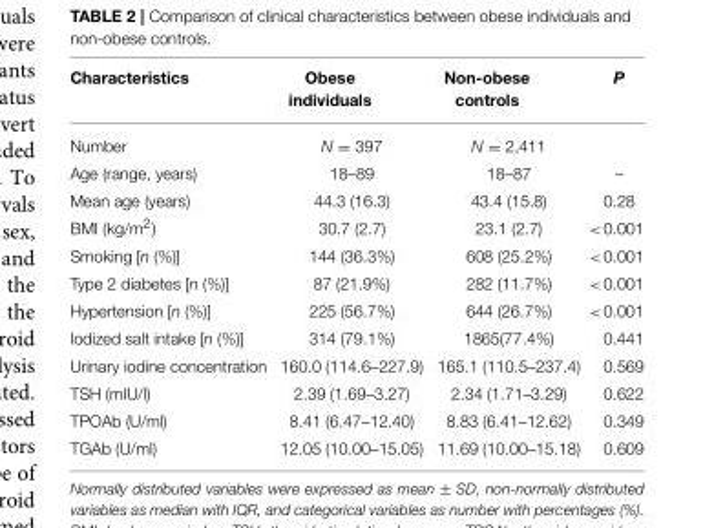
<table><thead><tr><td>Characteristics</td><td>Obese individuals</td><td>Non-obese controls</td><td>P</td></tr></thead><tbody><tr><td>Number</td><td>N = 397</td><td>N = 2,411</td><td></td></tr><tr><td>Age (range, years)</td><td>18–89</td><td>18–87</td><td>–</td></tr><tr><td>Mean age (years)</td><td>44.3 (16.3)</td><td>43.4 (15.8)</td><td>0.28</td></tr><tr><td>BMI (kg/m<sup>2</sup>)</td><td>30.7 (2.7)</td><td>23.1 (2.7)</td><td>&lt;0.001</td></tr><tr><td>Smoking [n (%)]</td><td>144 (36.3%)</td><td>608 (25.2%)</td><td>&lt;0.001</td></tr><tr><td>Type 2 diabetes [n (%)]</td><td>87 (21.9%)</td><td>282 (11.7%)</td><td>&lt;0.001</td></tr><tr><td>Hypertension [n (%)]</td><td>225 (56.7%)</td><td>644 (26.7%)</td><td>&lt;0.001</td></tr><tr><td>Iodized salt intake [n (%)]</td><td>314 (79.1%)</td><td>1865(77.4%)</td><td>0.441</td></tr><tr><td>Urinary iodine concentration</td><td>160.0 (114.6–227.9)</td><td>165.1 (110.5–237.4)</td><td>0.569</td></tr><tr><td>TSH (mIU/l)</td><td>2.39 (1.69–3.27)</td><td>2.34 (1.71–3.29)</td><td>0.622</td></tr><tr><td>TPOAb (U/ml)</td><td>8.41 (6.47–12.40)</td><td>8.83 (6.41–12.62)</td><td>0.349</td></tr><tr><td>TGAb (U/ml)</td><td>12.05 (10.00–15.05)</td><td>11.69 (10.00–15.18)</td><td>0.609</td></tr></tbody></table>